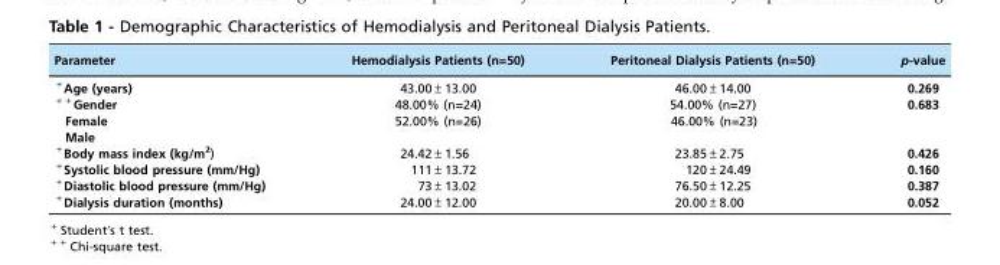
<table><thead><tr><td>Parameter</td><td>Hemodialysis Patients (n=50)</td><td>Peritoneal Dialysis Patients (n=50)</td><td>p-value</td></tr></thead><tbody><tr><td>+Age (years)</td><td>43.00±13.00</td><td>46.00±14.00</td><td>0.269</td></tr><tr><td>++Gender Female Male</td><td>48.00% (n=24) 52.00% (n=26)</td><td>54.00% (n=27) 46.00% (n=23)</td><td>0.683</td></tr><tr><td>+Body mass index (kg/m<sup>2</sup>)</td><td>24.42±1.56</td><td>23.85±2.75</td><td>0.426</td></tr><tr><td>+Systolic blood pressure (mm/Hg)</td><td>111±13.72</td><td>120±24.49</td><td>0.160</td></tr><tr><td>+Diastolic blood pressure (mm/Hg)</td><td>73±13.02</td><td>76.50±12.25</td><td>0.387</td></tr><tr><td>+Dialysis duration (months)</td><td>24.00±12.00</td><td>20.00±8.00</td><td>0.052</td></tr></tbody></table>